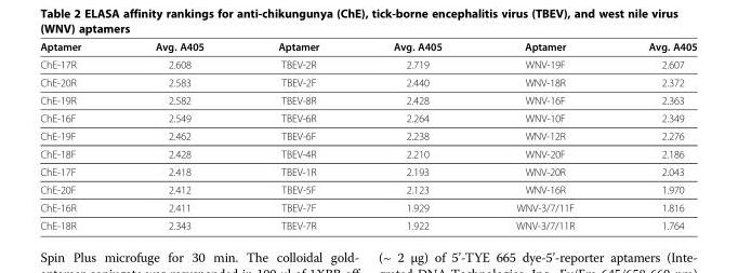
<table><thead><tr><td>Aptamer</td><td>Avg. A405</td><td>Aptamer</td><td>Avg. A405</td><td>Aptamer</td><td>Avg. A405</td></tr></thead><tbody><tr><td>ChE-17R</td><td>2.608</td><td>TBEV-2R</td><td>2.719</td><td>WNV-19F</td><td>2.607</td></tr><tr><td>ChE-20R</td><td>2.583</td><td>TBEV-2F</td><td>2.440</td><td>WNV-18R</td><td>2.372</td></tr><tr><td>ChE-19R</td><td>2.582</td><td>TBEV-8R</td><td>2.428</td><td>WNV-16F</td><td>2.363</td></tr><tr><td>ChE-16F</td><td>2.549</td><td>TBEV-6R</td><td>2.264</td><td>WNV-10F</td><td>2.349</td></tr><tr><td>ChE-19F</td><td>2.462</td><td>TBEV-6F</td><td>2.238</td><td>WNV-12R</td><td>2.276</td></tr><tr><td>ChE-18F</td><td>2.428</td><td>TBEV-4R</td><td>2.210</td><td>WNV-20F</td><td>2.186</td></tr><tr><td>ChE-17F</td><td>2.418</td><td>TBEV-1R</td><td>2.193</td><td>WNV-20R</td><td>2.043</td></tr><tr><td>ChE-20F</td><td>2.412</td><td>TBEV-5F</td><td>2.123</td><td>WNV-16R</td><td>1.970</td></tr><tr><td>ChE-16R</td><td>2.411</td><td>TBEV-7F</td><td>1.929</td><td>WNV-3/7/11F</td><td>1.816</td></tr><tr><td>ChE-18R</td><td>2.343</td><td>TBEV-7R</td><td>1.922</td><td>WNV-3/7/11R</td><td>1.764</td></tr></tbody></table>